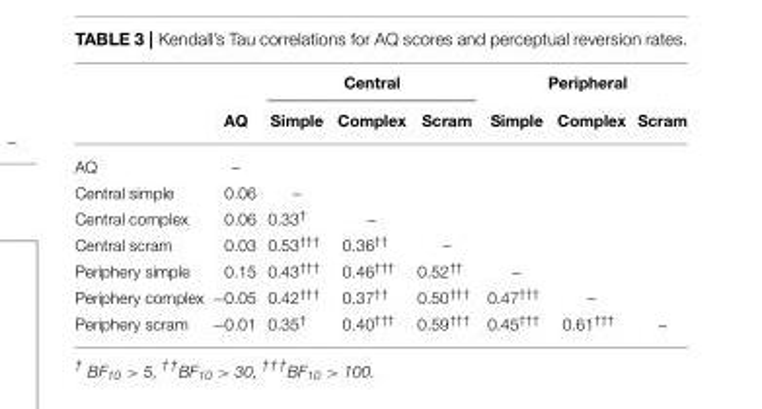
<table><thead><tr><td rowspan="2"></td><td rowspan="2">AQ</td><td colspan="3">Central</td><td colspan="3">Peripheral</td></tr><tr><td>Simple</td><td>Complex</td><td>Scram</td><td>Simple</td><td>Complex</td><td>Scram</td></tr></thead><tbody><tr><td>AQ</td><td>–</td><td></td><td></td><td></td><td></td><td></td><td></td></tr><tr><td>Central simple</td><td>0.06</td><td>–</td><td></td><td></td><td></td><td></td><td></td></tr><tr><td>Central complex</td><td>0.06</td><td>0.33<sup>†</sup></td><td>–</td><td></td><td></td><td></td><td></td></tr><tr><td>Central scram</td><td>0.03</td><td>0.53<sup>†††</sup></td><td>0.36<sup>††</sup></td><td>–</td><td></td><td></td><td></td></tr><tr><td>Periphery simple</td><td>0.15</td><td>0.43<sup>†††</sup></td><td>0.46<sup>†††</sup></td><td>0.52<sup>††</sup></td><td>–</td><td></td><td></td></tr><tr><td>Periphery complex</td><td>−0.05</td><td>0.42<sup>†††</sup></td><td>0.37<sup>††</sup></td><td>0.50<sup>†††</sup></td><td>0.47<sup>†††</sup></td><td>–</td><td></td></tr><tr><td>Periphery scram</td><td>−0.01</td><td>0.35<sup>†</sup></td><td>0.40<sup>†††</sup></td><td>0.59<sup>†††</sup></td><td>0.45<sup>†††</sup></td><td>0.61<sup>†††</sup></td><td>–</td></tr></tbody></table>